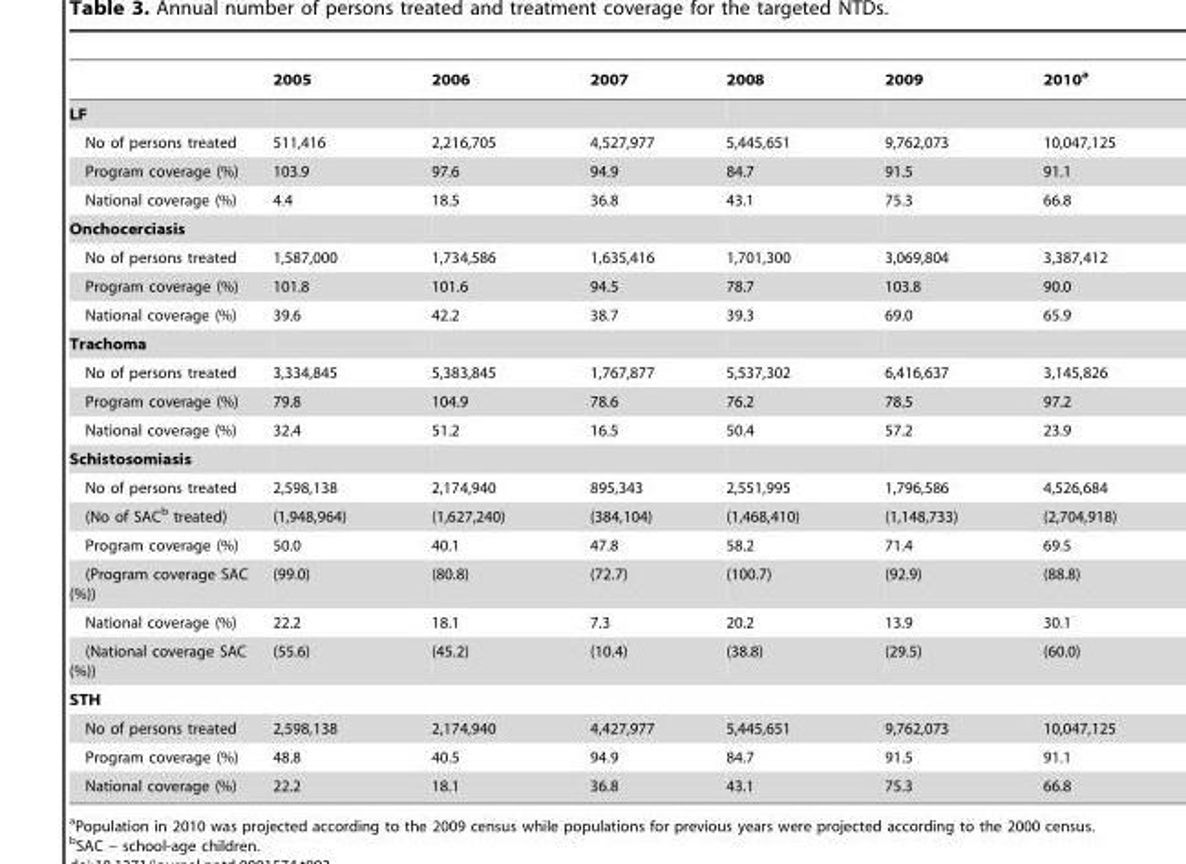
<table><thead><tr><td></td><td>2005</td><td>2006</td><td>2007</td><td>2008</td><td>2009</td><td>2010<sup>a</sup></td></tr></thead><tbody><tr><td colspan="7">LF</td></tr><tr><td>No of persons treated</td><td>511,416</td><td>2,216,705</td><td>4,527,977</td><td>5,445,651</td><td>9,762,073</td><td>10,047,125</td></tr><tr><td>Program coverage (%)</td><td>103.9</td><td>97.6</td><td>94.9</td><td>84.7</td><td>91.5</td><td>91.1</td></tr><tr><td>National coverage (%)</td><td>4.4</td><td>18.5</td><td>36.8</td><td>43.1</td><td>75.3</td><td>66.8</td></tr><tr><td colspan="7">Onchocerciasis</td></tr><tr><td>No of persons treated</td><td>1,587,000</td><td>1,734,586</td><td>1,635,416</td><td>1,701,300</td><td>3,069,804</td><td>3,387,412</td></tr><tr><td>Program coverage (%)</td><td>101.8</td><td>101.6</td><td>94.5</td><td>78.7</td><td>103.8</td><td>90.0</td></tr><tr><td>National coverage (%)</td><td>39.6</td><td>42.2</td><td>38.7</td><td>39.3</td><td>69.0</td><td>65.9</td></tr><tr><td colspan="7">Trachoma</td></tr><tr><td>No of persons treated</td><td>3,334,845</td><td>5,383,845</td><td>1,767,877</td><td>5,537,302</td><td>6,416,637</td><td>3,145,826</td></tr><tr><td>Program coverage (%)</td><td>79.8</td><td>104.9</td><td>78.6</td><td>76.2</td><td>78.5</td><td>97.2</td></tr><tr><td>National coverage (%)</td><td>32.4</td><td>51.2</td><td>16.5</td><td>50.4</td><td>57.2</td><td>23.9</td></tr><tr><td colspan="7">Schistosomiasis</td></tr><tr><td>No of persons treated</td><td>2,598,138</td><td>2,174,940</td><td>895,343</td><td>2,551,995</td><td>1,796,586</td><td>4,526,684</td></tr><tr><td>(No of SAC<sup>b</sup> treated)</td><td>(1,948,964)</td><td>(1,627,240)</td><td>(384,104)</td><td>(1,468,410)</td><td>(1,148,733)</td><td>(2,704,918)</td></tr><tr><td>Program coverage (%)</td><td>50.0</td><td>40.1</td><td>47.8</td><td>58.2</td><td>71.4</td><td>69.5</td></tr><tr><td>(Program coverage SAC (%))</td><td>(99.0)</td><td>(80.8)</td><td>(72.7)</td><td>(100.7)</td><td>(92.9)</td><td>(88.8)</td></tr><tr><td>National coverage (%)</td><td>22.2</td><td>18.1</td><td>7.3</td><td>20.2</td><td>13.9</td><td>30.1</td></tr><tr><td>(National coverage SAC (%))</td><td>(55.6)</td><td>(45.2)</td><td>(10.4)</td><td>(38.8)</td><td>(29.5)</td><td>(60.0)</td></tr><tr><td colspan="7">STH</td></tr><tr><td>No of persons treated</td><td>2,598,138</td><td>2,174,940</td><td>4,427,977</td><td>5,445,651</td><td>9,762,073</td><td>10,047,125</td></tr><tr><td>Program coverage (%)</td><td>48.8</td><td>40.5</td><td>94.9</td><td>84.7</td><td>91.5</td><td>91.1</td></tr><tr><td>National coverage (%)</td><td>22.2</td><td>18.1</td><td>36.8</td><td>43.1</td><td>75.3</td><td>66.8</td></tr></tbody></table>